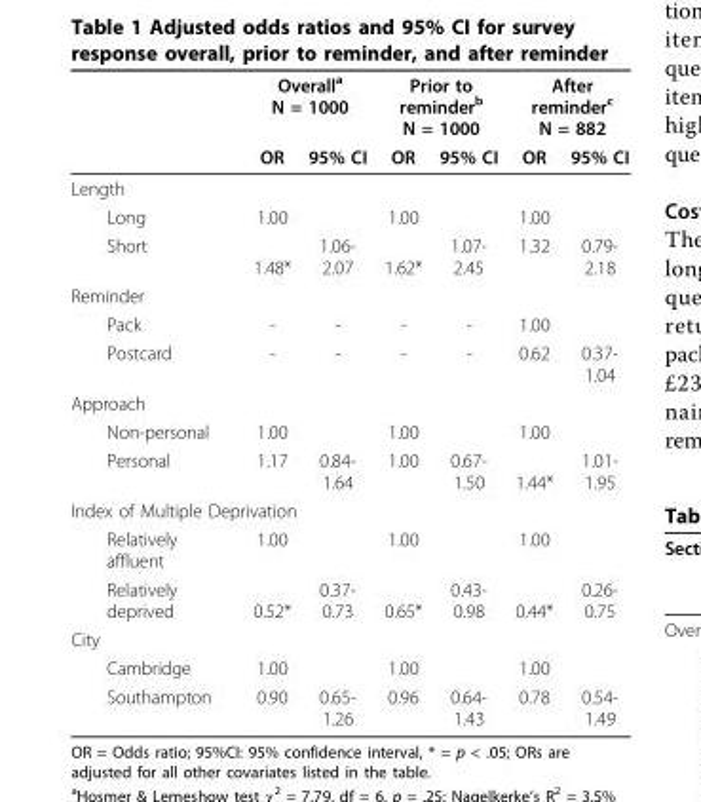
<table><thead><tr><td rowspan="2"></td><td colspan="2">Overall<sup>a</sup> N = 1000</td><td colspan="2">Prior to reminder<sup>b</sup> N = 1000</td><td colspan="2">After reminder<sup>c</sup> N = 882</td></tr><tr><td>OR</td><td>95% CI</td><td>OR</td><td>95% CI</td><td>OR</td><td>95% CI</td></tr></thead><tbody><tr><td colspan="7">Length</td></tr><tr><td>Long</td><td>1.00</td><td></td><td>1.00</td><td></td><td>1.00</td><td></td></tr><tr><td>Short</td><td>1.48*</td><td>1.06- 2.07</td><td>1.62*</td><td>1.07- 2.45</td><td>1.32</td><td>0.79- 2.18</td></tr><tr><td colspan="7">Reminder</td></tr><tr><td>Pack</td><td>-</td><td>-</td><td>-</td><td>-</td><td>1.00</td><td></td></tr><tr><td>Postcard</td><td>-</td><td>-</td><td>-</td><td>-</td><td>0.62</td><td>0.37- 1.04</td></tr><tr><td colspan="7">Approach</td></tr><tr><td>Non-personal</td><td>1.00</td><td></td><td>1.00</td><td></td><td>1.00</td><td></td></tr><tr><td>Personal</td><td>1.17</td><td>0.84- 1.64</td><td>1.00</td><td>0.67- 1.50</td><td>1.44*</td><td>1.01- 1.95</td></tr><tr><td colspan="7">Index of Multiple Deprivation</td></tr><tr><td>Relatively affluent</td><td>1.00</td><td></td><td>1.00</td><td></td><td>1.00</td><td></td></tr><tr><td>Relatively deprived</td><td>0.52*</td><td>0.37- 0.73</td><td>0.65*</td><td>0.43- 0.98</td><td>0.44*</td><td>0.26- 0.75</td></tr><tr><td colspan="7">City</td></tr><tr><td>Cambridge</td><td>1.00</td><td></td><td>1.00</td><td></td><td>1.00</td><td></td></tr><tr><td>Southampton</td><td>0.90</td><td>0.65- 1.26</td><td>0.96</td><td>0.64- 1.43</td><td>0.78</td><td>0.54- 1.49</td></tr></tbody></table>